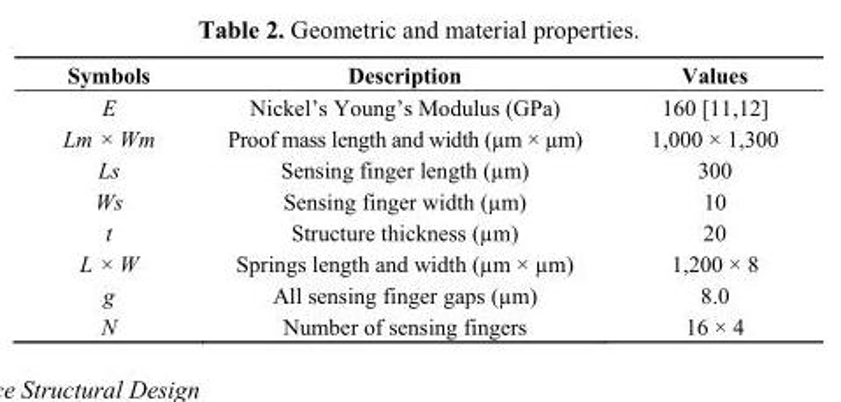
<table><thead><tr><td>Symbols</td><td>Description</td><td>Values</td></tr></thead><tbody><tr><td>E</td><td>Nickel’s Young’s Modulus (GPa)</td><td>160 [11,12]</td></tr><tr><td>Lm × Wm</td><td>Proof mass length and width (µm × µm)</td><td>1,000 × 1,300</td></tr><tr><td>Ls</td><td>Sensing finger length (µm)</td><td>300</td></tr><tr><td>Ws</td><td>Sensing finger width (µm)</td><td>10</td></tr><tr><td>t</td><td>Structure thickness (µm)</td><td>20</td></tr><tr><td>L × W</td><td>Springs length and width (µm × µm)</td><td>1,200 × 8</td></tr><tr><td>g</td><td>All sensing finger gaps (µm)</td><td>8.0</td></tr><tr><td>N</td><td>Number of sensing fingers</td><td>16 × 4</td></tr></tbody></table>